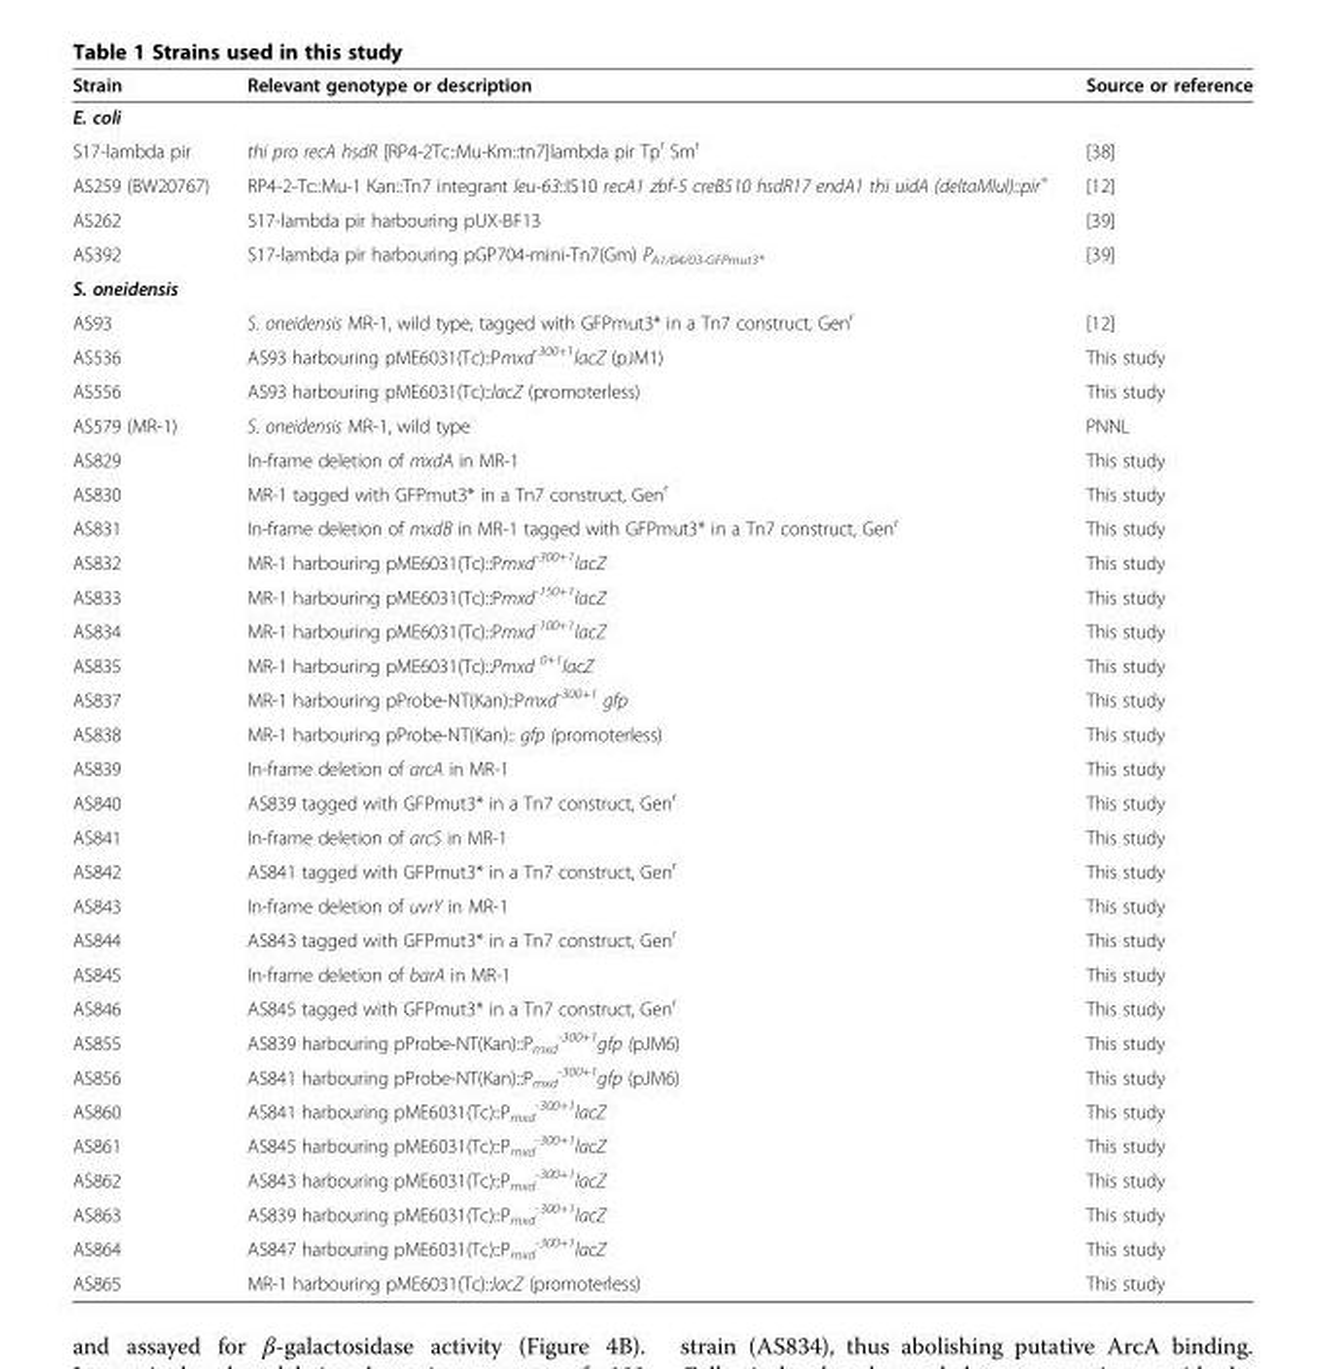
<table><thead><tr><td>Strain</td><td>Relevant genotype or description</td><td>Source or reference</td></tr></thead><tbody><tr><td colspan="3">E. coli</td></tr><tr><td>S17-lambda pir</td><td>thi pro recA hsdR [RP4-2Tc::Mu-Km::tn7]lambda pir Tp<sup>r</sup> Sm<sup>r</sup></td><td>[38]</td></tr><tr><td>AS259 (BW20767)</td><td>RP4-2-Tc::Mu-1 Kan::Tn7 integrant leu-63::IS10 recA1 zbf-5 creB510 hsdR17 endA1 thi uidA (deltaMluI)::pir<sup>+</sup></td><td>[12]</td></tr><tr><td>AS262</td><td>S17-lambda pir harbouring pUX-BF13</td><td>[39]</td></tr><tr><td>AS392</td><td>S17-lambda pir harbouring pGP704-mini-Tn7(Gm) P<sub>A1/04/03-GFPmut3*</sub></td><td>[39]</td></tr><tr><td colspan="3">S. oneidensis</td></tr><tr><td>AS93</td><td>S. oneidensis MR-1, wild type, tagged with GFPmut3* in a Tn7 construct, Gen<sup>r</sup></td><td>[12]</td></tr><tr><td>AS536</td><td>AS93 harbouring pME6031(Tc)::Pmxd<sup>-300+1</sup>lacZ (pJM1)</td><td>This study</td></tr><tr><td>AS556</td><td>AS93 harbouring pME6031(Tc)::lacZ (promoterless)</td><td>This study</td></tr><tr><td>AS579 (MR-1)</td><td>S. oneidensis MR-1, wild type</td><td>PNNL</td></tr><tr><td>AS829</td><td>In-frame deletion of mxdA in MR-1</td><td>This study</td></tr><tr><td>AS830</td><td>MR-1 tagged with GFPmut3* in a Tn7 construct, Gen<sup>r</sup></td><td>This study</td></tr><tr><td>AS831</td><td>In-frame deletion of mxdB in MR-1 tagged with GFPmut3* in a Tn7 construct, Gen<sup>r</sup></td><td>This study</td></tr><tr><td>AS832</td><td>MR-1 harbouring pME6031(Tc)::Pmxd<sup>-300+1</sup>lacZ</td><td>This study</td></tr><tr><td>AS833</td><td>MR-1 harbouring pME6031(Tc)::Pmxd<sup>-150+1</sup>lacZ</td><td>This study</td></tr><tr><td>AS834</td><td>MR-1 harbouring pME6031(Tc)::Pmxd<sup>-100+1</sup>lacZ</td><td>This study</td></tr><tr><td>AS835</td><td>MR-1 harbouring pME6031(Tc)::Pmxd <sup>0+1</sup>lacZ</td><td>This study</td></tr><tr><td>AS837</td><td>MR-1 harbouring pProbe-NT(Kan)::Pmxd<sup>-300+1</sup> gfp</td><td>This study</td></tr><tr><td>AS838</td><td>MR-1 harbouring pProbe-NT(Kan):: gfp (promoterless)</td><td>This study</td></tr><tr><td>AS839</td><td>In-frame deletion of arcA in MR-1</td><td>This study</td></tr><tr><td>AS840</td><td>AS839 tagged with GFPmut3* in a Tn7 construct, Gen<sup>r</sup></td><td>This study</td></tr><tr><td>AS841</td><td>In-frame deletion of arcS in MR-1</td><td>This study</td></tr><tr><td>AS842</td><td>AS841 tagged with GFPmut3* in a Tn7 construct, Gen<sup>r</sup></td><td>This study</td></tr><tr><td>AS843</td><td>In-frame deletion of uvrY in MR-1</td><td>This study</td></tr><tr><td>AS844</td><td>AS843 tagged with GFPmut3* in a Tn7 construct, Gen<sup>r</sup></td><td>This study</td></tr><tr><td>AS845</td><td>In-frame deletion of barA in MR-1</td><td>This study</td></tr><tr><td>AS846</td><td>AS845 tagged with GFPmut3* in a Tn7 construct, Gen<sup>r</sup></td><td>This study</td></tr><tr><td>AS855</td><td>AS839 harbouring pProbe-NT(Kan)::P<sub>mxd</sub> <sup>-300+1</sup>gfp (pJM6)</td><td>This study</td></tr><tr><td>AS856</td><td>AS841 harbouring pProbe-NT(Kan)::P<sub>mxd</sub> <sup>-300+1</sup>gfp (pJM6)</td><td>This study</td></tr><tr><td>AS860</td><td>AS841 harbouring pME6031(Tc)::P<sub>mxd</sub> <sup>-300+1</sup>lacZ</td><td>This study</td></tr><tr><td>AS861</td><td>AS845 harbouring pME6031(Tc)::P<sub>mxd</sub> <sup>-300+1</sup>lacZ</td><td>This study</td></tr><tr><td>AS862</td><td>AS843 harbouring pME6031(Tc)::P<sub>mxd</sub> <sup>-300+1</sup>lacZ</td><td>This study</td></tr><tr><td>AS863</td><td>AS839 harbouring pME6031(Tc)::P<sub>mxd</sub> <sup>-300+1</sup>lacZ</td><td>This study</td></tr><tr><td>AS864</td><td>AS847 harbouring pME6031(Tc)::P<sub>mxd</sub> <sup>-300+1</sup>lacZ</td><td>This study</td></tr><tr><td>AS865</td><td>MR-1 harbouring pME6031(Tc)::lacZ (promoterless)</td><td>This study</td></tr></tbody></table>